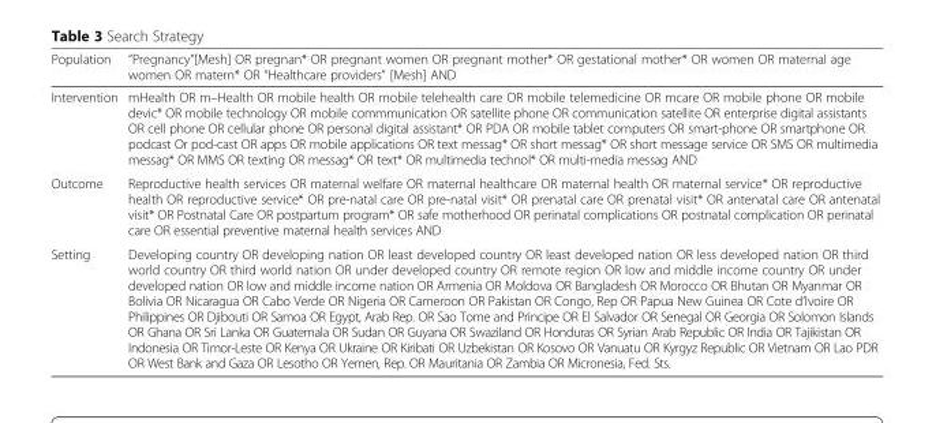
<table><thead><tr><td>Population</td><td>“Pregnancy”[Mesh] OR pregnan* OR pregnant women OR pregnant mother* OR gestational mother* OR women OR maternal age women OR matern* OR “Healthcare providers” [Mesh] AND</td></tr></thead><tbody><tr><td>Intervention</td><td>mHealth OR m–Health OR mobile health OR mobile telehealth care OR mobile telemedicine OR mcare OR mobile phone OR mobile devic* OR mobile technology OR mobile commmunication OR satellite phone OR communication satellite OR enterprise digital assistants OR cell phone OR cellular phone OR personal digital assistant* OR PDA OR mobile tablet computers OR smart-phone OR smartphone OR podcast Or pod-cast OR apps OR mobile applications OR text messag* OR short messag* OR short message service OR SMS OR multimedia messag* OR MMS OR texting OR messag* OR text* OR multimedia technol* OR multi-media messag AND</td></tr><tr><td>Outcome</td><td>Reproductive health services OR maternal welfare OR maternal healthcare OR maternal health OR maternal service* OR reproductive health OR reproductive service* OR pre-natal care OR pre-natal visit* OR prenatal care OR prenatal visit* OR antenatal care OR antenatal visit* OR Postnatal Care OR postpartum program* OR safe motherhood OR perinatal complications OR postnatal complication OR perinatal care OR essential preventive maternal health services AND</td></tr><tr><td>Setting</td><td>Developing country OR developing nation OR least developed country OR least developed nation OR less developed nation OR third world country OR third world nation OR under developed country OR remote region OR low and middle income country OR under developed nation OR low and middle income nation OR Armenia OR Moldova OR Bangladesh OR Morocco OR Bhutan OR Myanmar OR Bolivia OR Nicaragua OR Cabo Verde OR Nigeria OR Cameroon OR Pakistan OR Congo, Rep OR Papua New Guinea OR Cote d’Ivoire OR Philippines OR Djibouti OR Samoa OR Egypt, Arab Rep. OR Sao Tome and Principe OR El Salvador OR Senegal OR Georgia OR Solomon Islands OR Ghana OR Sri Lanka OR Guatemala OR Sudan OR Guyana OR Swaziland OR Honduras OR Syrian Arab Republic OR India OR Tajikistan OR Indonesia OR Timor-Leste OR Kenya OR Ukraine OR Kiribati OR Uzbekistan OR Kosovo OR Vanuatu OR Kyrgyz Republic OR Vietnam OR Lao PDR OR West Bank and Gaza OR Lesotho OR Yemen, Rep. OR Mauritania OR Zambia OR Micronesia, Fed. Sts.</td></tr></tbody></table>